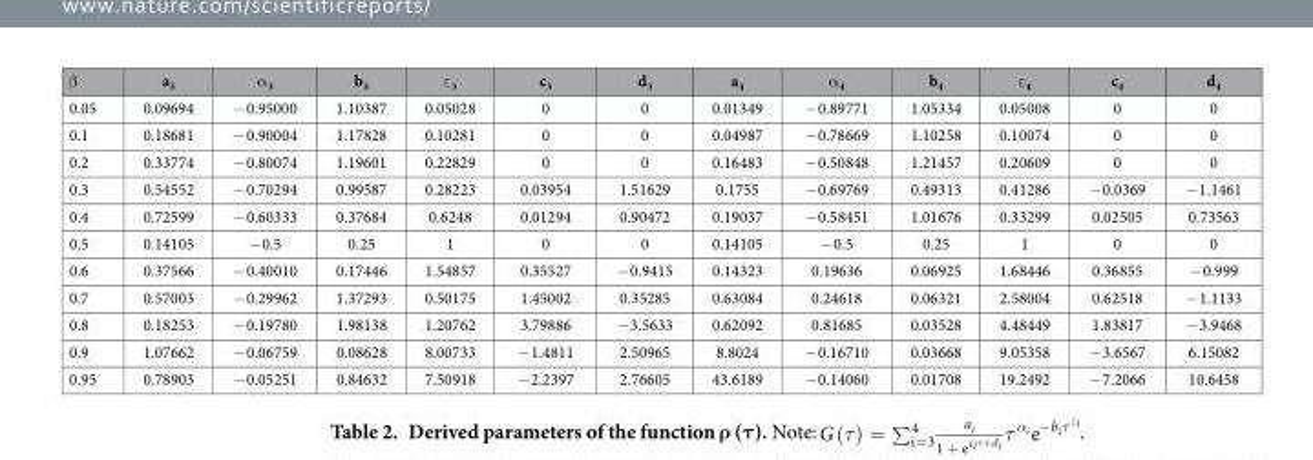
<table><thead><tr><td>β</td><td>a<sub>3</sub></td><td>α <sub>3</sub></td><td>b<sub>3</sub></td><td>ε <sub>3</sub></td><td>c<sub>3</sub></td><td>d<sub>3</sub></td><td>a<sub>4</sub></td><td>α <sub>4</sub></td><td>b<sub>4</sub></td><td>ε <sub>4</sub></td><td>c<sub>4</sub></td><td>d<sub>4</sub></td></tr></thead><tbody><tr><td>0.05</td><td>0.09694</td><td>− 0.95000</td><td>1.10387</td><td>0.05028</td><td>0</td><td>0</td><td>0.01349</td><td>− 0.89771</td><td>1.05334</td><td>0.05008</td><td>0</td><td>0</td></tr><tr><td>0.1</td><td>0.18681</td><td>− 0.90004</td><td>1.17828</td><td>0.10281</td><td>0</td><td>0</td><td>0.04987</td><td>− 0.78669</td><td>1.10258</td><td>0.10074</td><td>0</td><td>0</td></tr><tr><td>0.2</td><td>0.33774</td><td>− 0.80074</td><td>1.19601</td><td>0.22829</td><td>0</td><td>0</td><td>0.16483</td><td>− 0.50848</td><td>1.21457</td><td>0.20609</td><td>0</td><td>0</td></tr><tr><td>0.3</td><td>0.54552</td><td>− 0.70294</td><td>0.99587</td><td>0.28223</td><td>0.03954</td><td>1.51629</td><td>0.1755</td><td>− 0.69769</td><td>0.49313</td><td>0.41286</td><td>− 0.0369</td><td>− 1.1461</td></tr><tr><td>0.4</td><td>0.72599</td><td>− 0.60333</td><td>0.37684</td><td>0.6248</td><td>0.01294</td><td>0.90472</td><td>0.19037</td><td>− 0.58451</td><td>1.01676</td><td>0.33299</td><td>0.02505</td><td>0.73563</td></tr><tr><td>0.5</td><td>0.14105</td><td>− 0.5</td><td>0.25</td><td>1</td><td>0</td><td>0</td><td>0.14105</td><td>− 0.5</td><td>0.25</td><td>1</td><td>0</td><td>0</td></tr><tr><td>0.6</td><td>0.37566</td><td>− 0.40010</td><td>0.17446</td><td>1.54857</td><td>0.35527</td><td>− 0.9415</td><td>0.14323</td><td>0.19636</td><td>0.06925</td><td>1.68446</td><td>0.36855</td><td>− 0.999</td></tr><tr><td>0.7</td><td>0.57003</td><td>− 0.29962</td><td>1.37293</td><td>0.50175</td><td>1.45002</td><td>0.35285</td><td>0.63084</td><td>0.24618</td><td>0.06321</td><td>2.58004</td><td>0.62518</td><td>− 1.1133</td></tr><tr><td>0.8</td><td>0.18253</td><td>− 0.19780</td><td>1.98138</td><td>1.20762</td><td>3.79886</td><td>− 3.5633</td><td>0.62092</td><td>0.81685</td><td>0.03528</td><td>4.48449</td><td>1.83817</td><td>− 3.9468</td></tr><tr><td>0.9</td><td>1.07662</td><td>− 0.06759</td><td>0.08628</td><td>8.00733</td><td>− 1.4811</td><td>2.50965</td><td>8.8024</td><td>− 0.16710</td><td>0.03668</td><td>9.05358</td><td>− 3.6567</td><td>6.15082</td></tr><tr><td>0.95</td><td>0.78903</td><td>− 0.05251</td><td>0.84632</td><td>7.50918</td><td>− 2.2397</td><td>2.76605</td><td>43.6189</td><td>− 0.14060</td><td>0.01708</td><td>19.2492</td><td>− 7.2066</td><td>10.6458</td></tr></tbody></table>